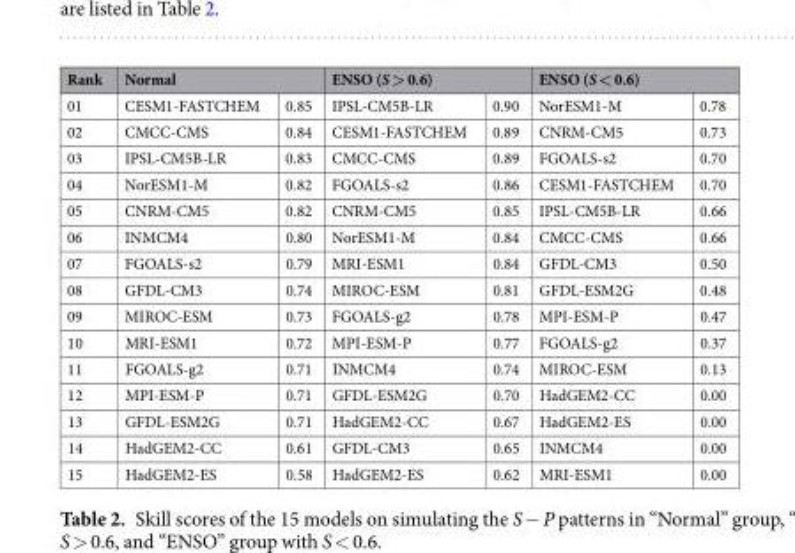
<table><thead><tr><td rowspan="2">Rank 01</td><td colspan="2">Normal</td><td colspan="2">ENSO (S &gt; 0.6)</td><td colspan="2">ENSO (S &lt; 0.6)</td></tr><tr><td>CESM1-FASTCHEM</td><td>0.85</td><td>IPSL-CM5B-LR</td><td>0.90</td><td>NorESM1-M</td><td>0.78</td></tr></thead><tbody><tr><td>02</td><td>CMCC-CMS</td><td>0.84</td><td>CESM1-FASTCHEM</td><td>0.89</td><td>CNRM-CM5</td><td>0.73</td></tr><tr><td>03</td><td>IPSL-CM5B-LR</td><td>0.83</td><td>CMCC-CMS</td><td>0.89</td><td>FGOALS-s2</td><td>0.70</td></tr><tr><td>04</td><td>NorESM1-M</td><td>0.82</td><td>FGOALS-s2</td><td>0.86</td><td>CESM1-FASTCHEM</td><td>0.70</td></tr><tr><td>05</td><td>CNRM-CM5</td><td>0.82</td><td>CNRM-CM5</td><td>0.85</td><td>IPSL-CM5B-LR</td><td>0.66</td></tr><tr><td>06</td><td>INMCM4</td><td>0.80</td><td>NorESM1-M</td><td>0.84</td><td>CMCC-CMS</td><td>0.66</td></tr><tr><td>07</td><td>FGOALS-s2</td><td>0.79</td><td>MRI-ESM1</td><td>0.84</td><td>GFDL-CM3</td><td>0.50</td></tr><tr><td>08</td><td>GFDL-CM3</td><td>0.74</td><td>MIROC-ESM</td><td>0.81</td><td>GFDL-ESM2G</td><td>0.48</td></tr><tr><td>09</td><td>MIROC-ESM</td><td>0.73</td><td>FGOALS-g2</td><td>0.78</td><td>MPI-ESM-P</td><td>0.47</td></tr><tr><td>10</td><td>MRI-ESM1</td><td>0.72</td><td>MPI-ESM-P</td><td>0.77</td><td>FGOALS-g2</td><td>0.37</td></tr><tr><td>11</td><td>FGOALS-g2</td><td>0.71</td><td>INMCM4</td><td>0.74</td><td>MIROC-ESM</td><td>0.13</td></tr><tr><td>12</td><td>MPI-ESM-P</td><td>0.71</td><td>GFDL-ESM2G</td><td>0.70</td><td>HadGEM2-CC</td><td>0.00</td></tr><tr><td>13</td><td>GFDL-ESM2G</td><td>0.71</td><td>HadGEM2-CC</td><td>0.67</td><td>HadGEM2-ES</td><td>0.00</td></tr><tr><td>14</td><td>HadGEM2-CC</td><td>0.61</td><td>GFDL-CM3</td><td>0.65</td><td>INMCM4</td><td>0.00</td></tr><tr><td>15</td><td>HadGEM2-ES</td><td>0.58</td><td>HadGEM2-ES</td><td>0.62</td><td>MRI-ESM1</td><td>0.00</td></tr></tbody></table>